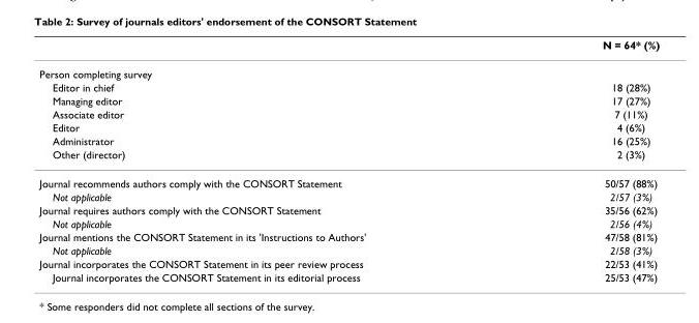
<table><thead><tr><td></td><td>N = 64* (%)</td></tr></thead><tbody><tr><td colspan="2">Person completing survey</td></tr><tr><td>Editor in chief</td><td>18 (28%)</td></tr><tr><td>Managing editor</td><td>17 (27%)</td></tr><tr><td>Associate editor</td><td>7 (11%)</td></tr><tr><td>Editor</td><td>4 (6%)</td></tr><tr><td>Administrator</td><td>16 (25%)</td></tr><tr><td>Other (director)</td><td>2 (3%)</td></tr><tr><td>Journal recommends authors comply with the CONSORT Statement</td><td>50/57 (88%)</td></tr><tr><td>Not applicable</td><td>2/57 (3%)</td></tr><tr><td>Journal requires authors comply with the CONSORT Statement</td><td>35/56 (62%)</td></tr><tr><td>Not applicable</td><td>2/56 (4%)</td></tr><tr><td>Journal mentions the CONSORT Statement in its &#x27;Instructions to Authors&#x27;</td><td>47/58 (81%)</td></tr><tr><td>Not applicable</td><td>2/58 (3%)</td></tr><tr><td>Journal incorporates the CONSORT Statement in its peer review process</td><td>22/53 (41%)</td></tr><tr><td>Journal incorporates the CONSORT Statement in its editorial process</td><td>25/53 (47%)</td></tr></tbody></table>